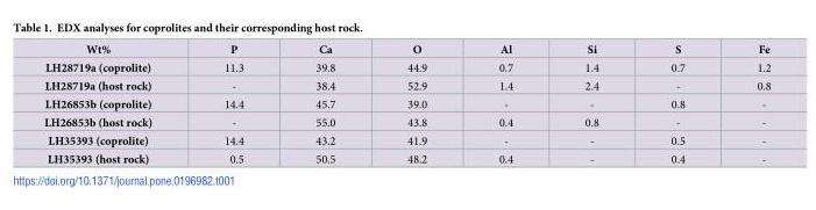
<table><thead><tr><td>Wt%</td><td>P</td><td>Ca</td><td>O</td><td>Al</td><td>Si</td><td>S</td><td>Fe</td></tr></thead><tbody><tr><td>LH28719a (coprolite)</td><td>11.3</td><td>39.8</td><td>44.9</td><td>0.7</td><td>1.4</td><td>0.7</td><td>1.2</td></tr><tr><td>LH28719a (host rock)</td><td>-</td><td>38.4</td><td>52.9</td><td>1.4</td><td>2.4</td><td>-</td><td>0.8</td></tr><tr><td>LH26853b (coprolite)</td><td>14.4</td><td>45.7</td><td>39.0</td><td>-</td><td>-</td><td>0.8</td><td>-</td></tr><tr><td>LH26853b (host rock)</td><td>-</td><td>55.0</td><td>43.8</td><td>0.4</td><td>0.8</td><td>-</td><td>-</td></tr><tr><td>LH35393 (coprolite)</td><td>14.4</td><td>43.2</td><td>41.9</td><td>-</td><td>-</td><td>0.5</td><td>-</td></tr><tr><td>LH35393 (host rock)</td><td>0.5</td><td>50.5</td><td>48.2</td><td>0.4</td><td>-</td><td>0.4</td><td>-</td></tr></tbody></table>